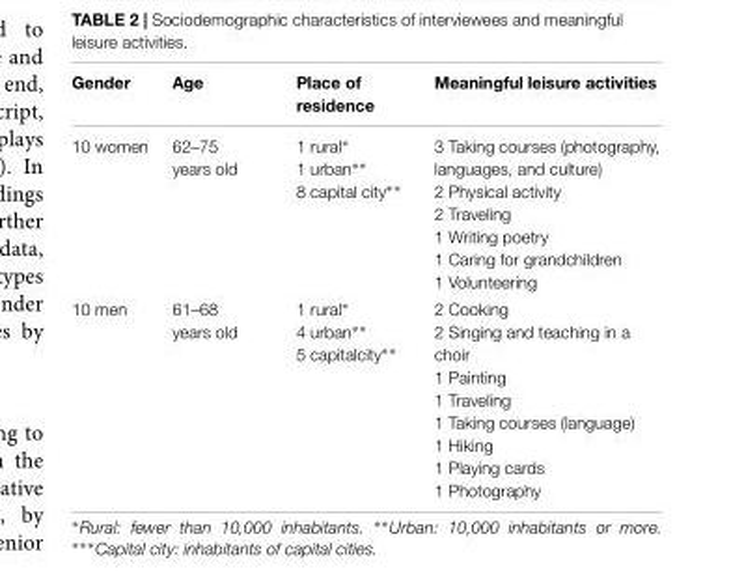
<table><thead><tr><td>Gender</td><td>Age</td><td>Place of residence</td><td>Meaningful leisure activities</td></tr></thead><tbody><tr><td>10 women</td><td>62–75 years old</td><td>1 rural∗ 1 urban∗∗ 8 capital city∗∗</td><td>3 Taking courses (photography, languages, and culture) 2 Physical activity 2 Traveling 1 Writing poetry 1 Caring for grandchildren 1 Volunteering</td></tr><tr><td>10 men</td><td>61–68 years old</td><td>1 rural∗ 4 urban∗∗ 5 capitalcity∗∗</td><td>2 Cooking 2 Singing and teaching in a choir 1 Painting 1 Traveling 1 Taking courses (language) 1 Hiking 1 Playing cards 1 Photography</td></tr></tbody></table>